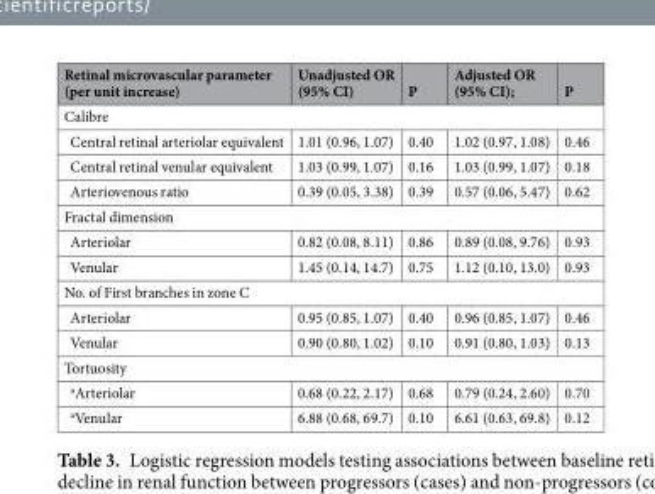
<table><thead><tr><td>Retinal microvascular parameter (per unit increase)</td><td>Unadjusted OR (95% CI)</td><td>P</td><td>Adjusted OR (95% CI);</td><td>P</td></tr></thead><tbody><tr><td colspan="5">Calibre</td></tr><tr><td>Central retinal arteriolar equivalent</td><td>1.01 (0.96, 1.07)</td><td>0.40</td><td>1.02 (0.97, 1.08)</td><td>0.46</td></tr><tr><td>Central retinal venular equivalent</td><td>1.03 (0.99, 1.07)</td><td>0.16</td><td>1.03 (0.99, 1.07)</td><td>0.18</td></tr><tr><td>Arteriovenous ratio</td><td>0.39 (0.05, 3.38)</td><td>0.39</td><td>0.57 (0.06, 5.47)</td><td>0.62</td></tr><tr><td colspan="5">Fractal dimension</td></tr><tr><td>Arteriolar</td><td>0.82 (0.08, 8.11)</td><td>0.86</td><td>0.89 (0.08, 9.76)</td><td>0.93</td></tr><tr><td>Venular</td><td>1.45 (0.14, 14.7)</td><td>0.75</td><td>1.12 (0.10, 13.0)</td><td>0.93</td></tr><tr><td colspan="5">No. of First branches in zone C</td></tr><tr><td>Arteriolar</td><td>0.95 (0.85, 1.07)</td><td>0.40</td><td>0.96 (0.85, 1.07)</td><td>0.46</td></tr><tr><td>Venular</td><td>0.90 (0.80, 1.02)</td><td>0.10</td><td>0.91 (0.80, 1.03)</td><td>0.13</td></tr><tr><td colspan="5">Tortuosity</td></tr><tr><td><sup>a</sup>Arteriolar</td><td>0.68 (0.22, 2.17)</td><td>0.68</td><td>0.79 (0.24, 2.60)</td><td>0.70</td></tr><tr><td><sup>a</sup>Venular</td><td>6.88 (0.68, 69.7)</td><td>0.10</td><td>6.61 (0.63, 69.8)</td><td>0.12</td></tr></tbody></table>